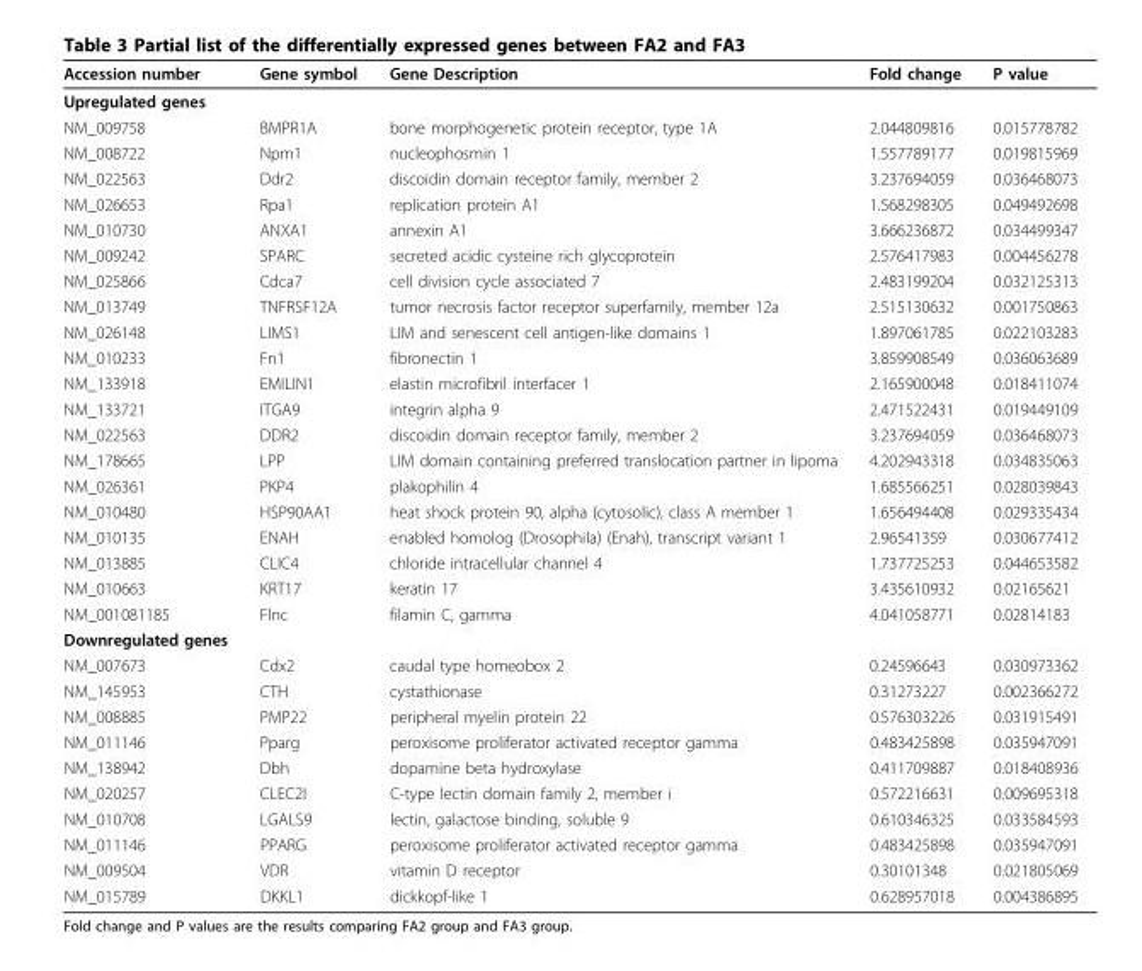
<table><thead><tr><td>Accession number</td><td>Gene symbol</td><td>Gene Description</td><td>Fold change</td><td>P value</td></tr></thead><tbody><tr><td colspan="5">Upregulated genes</td></tr><tr><td>NM_009758</td><td>BMPR1A</td><td>bone morphogenetic protein receptor, type 1A</td><td>2.044809816</td><td>0.015778782</td></tr><tr><td>NM_008722</td><td>Npm1</td><td>nucleophosmin 1</td><td>1.557789177</td><td>0.019815969</td></tr><tr><td>NM_022563</td><td>Ddr2</td><td>discoidin domain receptor family, member 2</td><td>3.237694059</td><td>0.036468073</td></tr><tr><td>NM_026653</td><td>Rpa1</td><td>replication protein A1</td><td>1.568298305</td><td>0.049492698</td></tr><tr><td>NM_010730</td><td>ANXA1</td><td>annexin A1</td><td>3.666236872</td><td>0.034499347</td></tr><tr><td>NM_009242</td><td>SPARC</td><td>secreted acidic cysteine rich glycoprotein</td><td>2.576417983</td><td>0.004456278</td></tr><tr><td>NM_025866</td><td>Cdca7</td><td>cell division cycle associated 7</td><td>2.483199204</td><td>0.032125313</td></tr><tr><td>NM_013749</td><td>TNFRSF12A</td><td>tumor necrosis factor receptor superfamily, member 12a</td><td>2.515130632</td><td>0.001750863</td></tr><tr><td>NM_026148</td><td>LIMS1</td><td>LIM and senescent cell antigen-like domains 1</td><td>1.897061785</td><td>0.022103283</td></tr><tr><td>NM_010233</td><td>Fn1</td><td>fibronectin 1</td><td>3.859908549</td><td>0.036063689</td></tr><tr><td>NM_133918</td><td>EMILIN1</td><td>elastin microfibril interfacer 1</td><td>2.165900048</td><td>0.018411074</td></tr><tr><td>NM_133721</td><td>ITGA9</td><td>integrin alpha 9</td><td>2.471522431</td><td>0.019449109</td></tr><tr><td>NM_022563</td><td>DDR2</td><td>discoidin domain receptor family, member 2</td><td>3.237694059</td><td>0.036468073</td></tr><tr><td>NM_178665</td><td>LPP</td><td>LIM domain containing preferred translocation partner in lipoma</td><td>4.202943318</td><td>0.034835063</td></tr><tr><td>NM_026361</td><td>PKP4</td><td>plakophilin 4</td><td>1.685566251</td><td>0.028039843</td></tr><tr><td>NM_010480</td><td>HSP90AA1</td><td>heat shock protein 90, alpha (cytosolic), class A member 1</td><td>1.656494408</td><td>0.029335434</td></tr><tr><td>NM_010135</td><td>ENAH</td><td>enabled homolog (Drosophila) (Enah), transcript variant 1</td><td>2.96541359</td><td>0.030677412</td></tr><tr><td>NM_013885</td><td>CLIC4</td><td>chloride intracellular channel 4</td><td>1.737725253</td><td>0.044653582</td></tr><tr><td>NM_010663</td><td>KRT17</td><td>keratin 17</td><td>3.435610932</td><td>0.02165621</td></tr><tr><td>NM_001081185</td><td>Flnc</td><td>filamin C, gamma</td><td>4.041058771</td><td>0.02814183</td></tr><tr><td colspan="5">Downregulated genes</td></tr><tr><td>NM_007673</td><td>Cdx2</td><td>caudal type homeobox 2</td><td>0.24596643</td><td>0.030973362</td></tr><tr><td>NM_145953</td><td>CTH</td><td>cystathionase</td><td>0.31273227</td><td>0.002366272</td></tr><tr><td>NM_008885</td><td>PMP22</td><td>peripheral myelin protein 22</td><td>0.576303226</td><td>0.031915491</td></tr><tr><td>NM_011146</td><td>Pparg</td><td>peroxisome proliferator activated receptor gamma</td><td>0.483425898</td><td>0.035947091</td></tr><tr><td>NM_138942</td><td>Dbh</td><td>dopamine beta hydroxylase</td><td>0.411709887</td><td>0.018408936</td></tr><tr><td>NM_020257</td><td>CLEC2I</td><td>C-type lectin domain family 2, member i</td><td>0.572216631</td><td>0.009695318</td></tr><tr><td>NM_010708</td><td>LGALS9</td><td>lectin, galactose binding, soluble 9</td><td>0.610346325</td><td>0.033584593</td></tr><tr><td>NM_011146</td><td>PPARG</td><td>peroxisome proliferator activated receptor gamma</td><td>0.483425898</td><td>0.035947091</td></tr><tr><td>NM_009504</td><td>VDR</td><td>vitamin D receptor</td><td>0.30101348</td><td>0.021805069</td></tr><tr><td>NM_015789</td><td>DKKL1</td><td>dickkopf-like 1</td><td>0.628957018</td><td>0.004386895</td></tr></tbody></table>